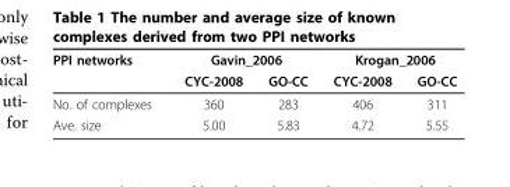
<table><thead><tr><td rowspan="2">PPI networks</td><td colspan="2">Gavin_2006</td><td colspan="2">Krogan_2006</td></tr><tr><td>CYC-2008</td><td>GO-CC</td><td>CYC-2008</td><td>GO-CC</td></tr></thead><tbody><tr><td>No. of complexes</td><td>360</td><td>283</td><td>406</td><td>311</td></tr><tr><td>Ave. size</td><td>5.00</td><td>5.83</td><td>4.72</td><td>5.55</td></tr></tbody></table>